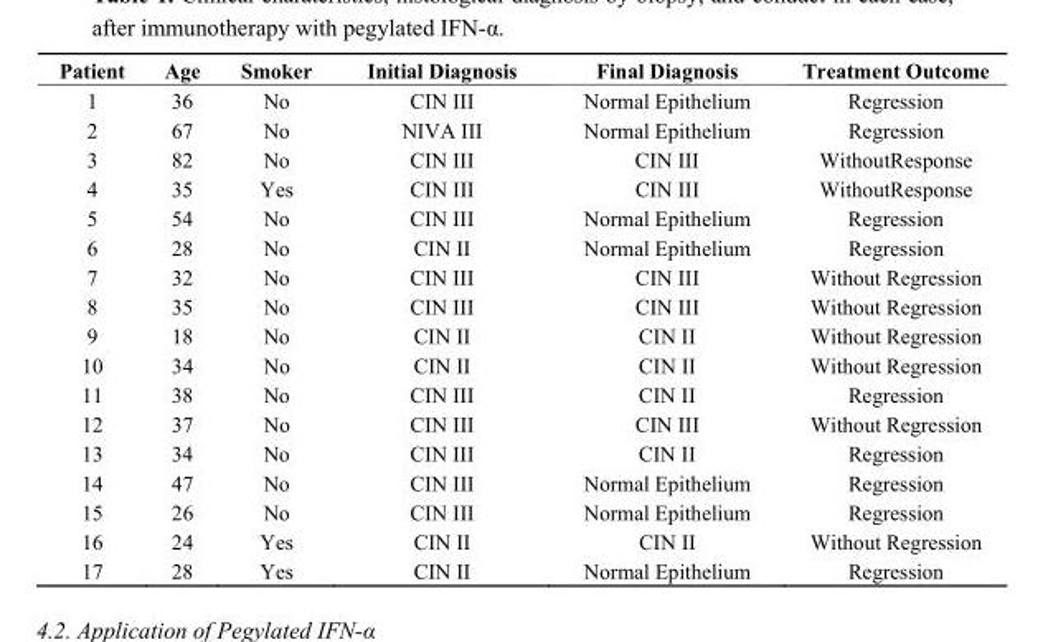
<table><thead><tr><td>Patient</td><td>Age</td><td>Smoker</td><td>Initial Diagnosis</td><td>Final Diagnosis</td><td>Treatment Outcome</td></tr></thead><tbody><tr><td>1</td><td>36</td><td>No</td><td>CIN III</td><td>Normal Epithelium</td><td>Regression</td></tr><tr><td>2</td><td>67</td><td>No</td><td>NIVA III</td><td>Normal Epithelium</td><td>Regression</td></tr><tr><td>3</td><td>82</td><td>No</td><td>CIN III</td><td>CIN III</td><td>WithoutResponse</td></tr><tr><td>4</td><td>35</td><td>Yes</td><td>CIN III</td><td>CIN III</td><td>WithoutResponse</td></tr><tr><td>5</td><td>54</td><td>No</td><td>CIN III</td><td>Normal Epithelium</td><td>Regression</td></tr><tr><td>6</td><td>28</td><td>No</td><td>CIN II</td><td>Normal Epithelium</td><td>Regression</td></tr><tr><td>7</td><td>32</td><td>No</td><td>CIN III</td><td>CIN III</td><td>Without Regression</td></tr><tr><td>8</td><td>35</td><td>No</td><td>CIN III</td><td>CIN III</td><td>Without Regression</td></tr><tr><td>9</td><td>18</td><td>No</td><td>CIN II</td><td>CIN II</td><td>Without Regression</td></tr><tr><td>10</td><td>34</td><td>No</td><td>CIN II</td><td>CIN II</td><td>Without Regression</td></tr><tr><td>11</td><td>38</td><td>No</td><td>CIN III</td><td>CIN II</td><td>Regression</td></tr><tr><td>12</td><td>37</td><td>No</td><td>CIN III</td><td>CIN III</td><td>Without Regression</td></tr><tr><td>13</td><td>34</td><td>No</td><td>CIN III</td><td>CIN II</td><td>Regression</td></tr><tr><td>14</td><td>47</td><td>No</td><td>CIN III</td><td>Normal Epithelium</td><td>Regression</td></tr><tr><td>15</td><td>26</td><td>No</td><td>CIN III</td><td>Normal Epithelium</td><td>Regression</td></tr><tr><td>16</td><td>24</td><td>Yes</td><td>CIN II</td><td>CIN II</td><td>Without Regression</td></tr><tr><td>17</td><td>28</td><td>Yes</td><td>CIN II</td><td>Normal Epithelium</td><td>Regression</td></tr></tbody></table>